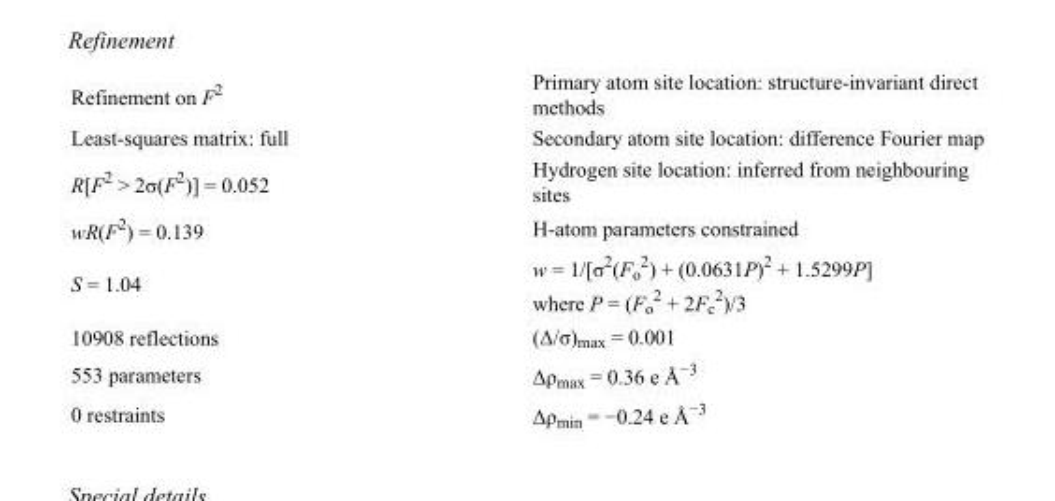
<table><tbody><tr><td>Refinement on F<sup>2</sup></td><td>Primary atom site location: structure-invariant direct methods</td></tr><tr><td>Least-squares matrix: full</td><td>Secondary atom site location: difference Fourier map</td></tr><tr><td>R[F<sup>2</sup> &gt; 2σ(F<sup>2</sup>)] = 0.052</td><td>Hydrogen site location: inferred from neighbouring sites</td></tr><tr><td>wR(F<sup>2</sup>) = 0.139</td><td>H-atom parameters constrained</td></tr><tr><td>S = 1.04</td><td>w = 1/[σ<sup>2</sup>(F<sub>o</sub> <sup>2</sup>) + (0.0631P)<sup>2</sup> + 1.5299P] where P = (F<sub>o</sub> <sup>2</sup> + 2F<sub>c</sub> <sup>2</sup>)/3</td></tr><tr><td>10908 reflections</td><td>(Δ/σ)<sub>max</sub> = 0.001</td></tr><tr><td>553 parameters</td><td>Δρ<sub>max</sub> = 0.36 e Å<sup>−3</sup></td></tr><tr><td>0 restraints</td><td>Δρ<sub>min</sub> = −0.24 e Å<sup>−3</sup></td></tr></tbody></table>